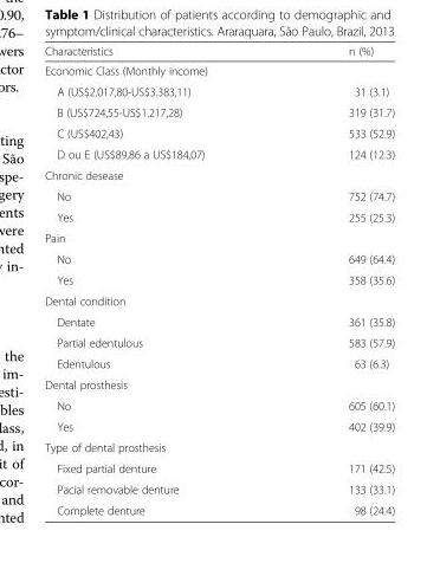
<table><thead><tr><td>Characteristics</td><td>n (%)</td></tr></thead><tbody><tr><td colspan="2">Economic Class (Monthly income)</td></tr><tr><td>A (US$2.017,80-US$3.383,11)</td><td>31 (3.1)</td></tr><tr><td>B (US$724,55-US$1.217,28)</td><td>319 (31.7)</td></tr><tr><td>C (US$402,43)</td><td>533 (52.9)</td></tr><tr><td>D ou E (US$89,86 a US$184,07)</td><td>124 (12.3)</td></tr><tr><td colspan="2">Chronic desease</td></tr><tr><td>No</td><td>752 (74.7)</td></tr><tr><td>Yes</td><td>255 (25.3)</td></tr><tr><td colspan="2">Pain</td></tr><tr><td>No</td><td>649 (64.4)</td></tr><tr><td>Yes</td><td>358 (35.6)</td></tr><tr><td colspan="2">Dental condition</td></tr><tr><td>Dentate</td><td>361 (35.8)</td></tr><tr><td>Partial edentulous</td><td>583 (57.9)</td></tr><tr><td>Edentulous</td><td>63 (6.3)</td></tr><tr><td colspan="2">Dental prosthesis</td></tr><tr><td>No</td><td>605 (60.1)</td></tr><tr><td>Yes</td><td>402 (39.9)</td></tr><tr><td colspan="2">Type of dental prosthesis</td></tr><tr><td>Fixed partial denture</td><td>171 (42.5)</td></tr><tr><td>Pacial removable denture</td><td>133 (33.1)</td></tr><tr><td>Complete denture</td><td>98 (24.4)</td></tr></tbody></table>